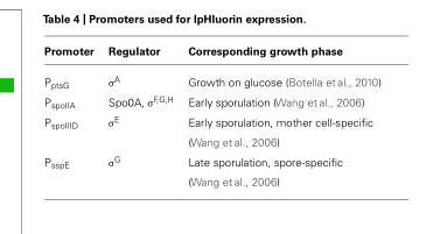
<table><thead><tr><td>Promoter</td><td>Regulator</td><td>Corresponding growth phase</td></tr></thead><tbody><tr><td>P<sub>ptsG</sub></td><td>σ<sup>A</sup></td><td>Growth on glucose (Botella et al., 2010)</td></tr><tr><td>P<sub>spoIIA</sub></td><td>Spo0A, σ<sup>F,G,H</sup></td><td>Early sporulation (Wang et al., 2006)</td></tr><tr><td>P<sub>spoIIID</sub></td><td>σ<sup>E</sup></td><td>Early sporulation, mother cell-specific (Wang et al., 2006)</td></tr><tr><td>P<sub>sspE</sub></td><td>σ<sup>G</sup></td><td>Late sporulation, spore-specific (Wang et al., 2006)</td></tr></tbody></table>